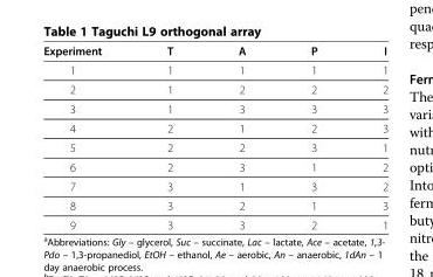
<table><thead><tr><td>Experiment</td><td>T</td><td>A</td><td>P</td><td>I</td></tr></thead><tbody><tr><td>1</td><td>1</td><td>1</td><td>1</td><td>1</td></tr><tr><td>2</td><td>1</td><td>2</td><td>2</td><td>2</td></tr><tr><td>3</td><td>1</td><td>3</td><td>3</td><td>3</td></tr><tr><td>4</td><td>2</td><td>1</td><td>2</td><td>3</td></tr><tr><td>5</td><td>2</td><td>2</td><td>3</td><td>1</td></tr><tr><td>6</td><td>2</td><td>3</td><td>1</td><td>2</td></tr><tr><td>7</td><td>3</td><td>1</td><td>3</td><td>2</td></tr><tr><td>8</td><td>3</td><td>2</td><td>1</td><td>3</td></tr><tr><td>9</td><td>3</td><td>3</td><td>2</td><td>1</td></tr></tbody></table>